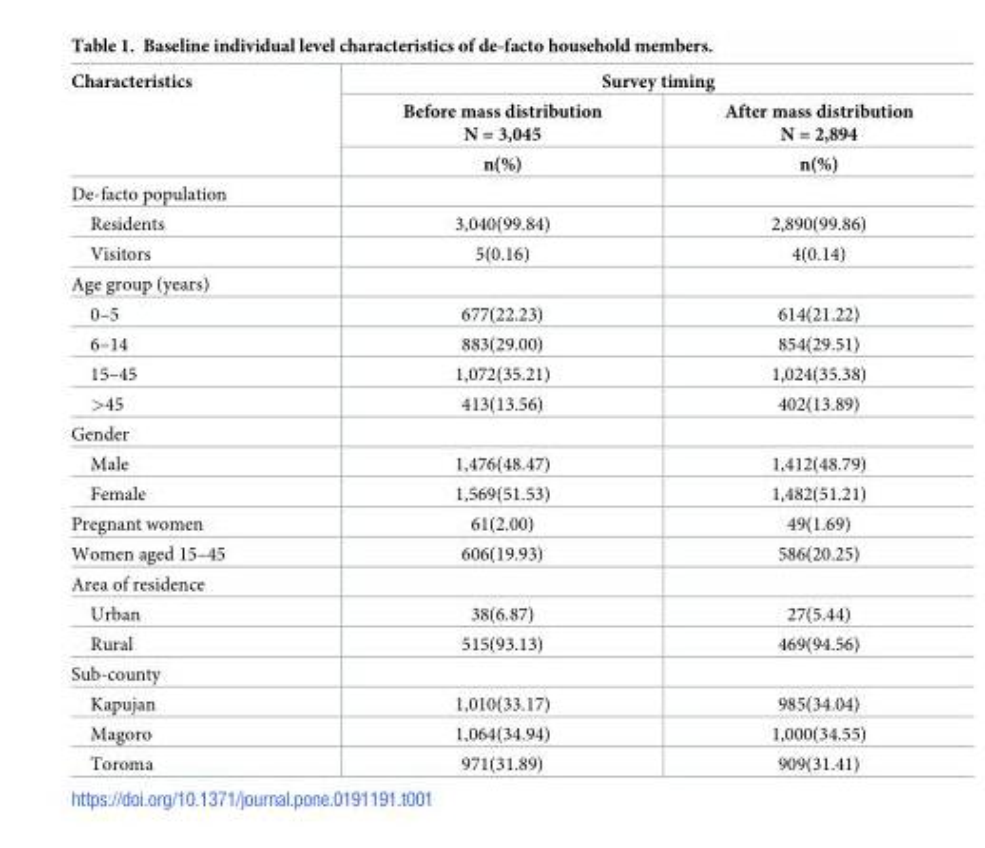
<table><thead><tr><td rowspan="3">Characteristics</td><td colspan="2">Survey timing</td></tr><tr><td rowspan="2">Before mass distribution N = 3,045 n(%)</td><td rowspan="2">After mass distribution N = 2,894 n(%)</td></tr><tr></tr></thead><tbody><tr><td colspan="3">De-facto population</td></tr><tr><td>Residents</td><td>3,040(99.84)</td><td>2,890(99.86)</td></tr><tr><td>Visitors</td><td>5(0.16)</td><td>4(0.14)</td></tr><tr><td colspan="3">Age group (years)</td></tr><tr><td>0–5</td><td>677(22.23)</td><td>614(21.22)</td></tr><tr><td>6–14</td><td>883(29.00)</td><td>854(29.51)</td></tr><tr><td>15–45</td><td>1,072(35.21)</td><td>1,024(35.38)</td></tr><tr><td>&gt;45</td><td>413(13.56)</td><td>402(13.89)</td></tr><tr><td colspan="3">Gender</td></tr><tr><td>Male</td><td>1,476(48.47)</td><td>1,412(48.79)</td></tr><tr><td>Female</td><td>1,569(51.53)</td><td>1,482(51.21)</td></tr><tr><td>Pregnant women</td><td>61(2.00)</td><td>49(1.69)</td></tr><tr><td>Women aged 15–45</td><td>606(19.93)</td><td>586(20.25)</td></tr><tr><td colspan="3">Area of residence</td></tr><tr><td>Urban</td><td>38(6.87)</td><td>27(5.44)</td></tr><tr><td>Rural</td><td>515(93.13)</td><td>469(94.56)</td></tr><tr><td colspan="3">Sub-county</td></tr><tr><td>Kapujan</td><td>1,010(33.17)</td><td>985(34.04)</td></tr><tr><td>Magoro</td><td>1,064(34.94)</td><td>1,000(34.55)</td></tr><tr><td>Toroma</td><td>971(31.89)</td><td>909(31.41)</td></tr></tbody></table>